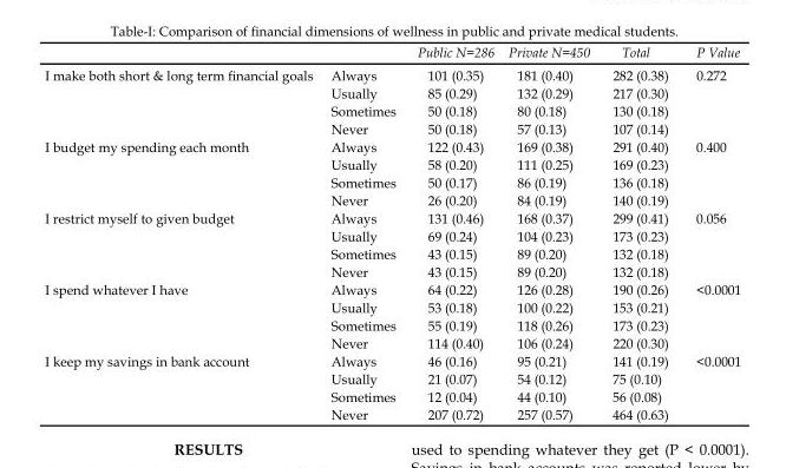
<table><thead><tr><td></td><td></td><td>Public N=286</td><td>Private N=450</td><td>Total</td><td>P Value</td></tr></thead><tbody><tr><td rowspan="4">I make both short &amp; long term financial goals</td><td>Always</td><td>101 (0.35)</td><td>181 (0.40)</td><td>282 (0.38)</td><td rowspan="4">0.272</td></tr><tr><td>Usually</td><td>85 (0.29)</td><td>132 (0.29)</td><td>217 (0.30)</td></tr><tr><td>Sometimes</td><td>50 (0.18)</td><td>80 (0.18)</td><td>130 (0.18)</td></tr><tr><td>Never</td><td>50 (0.18)</td><td>57 (0.13)</td><td>107 (0.14)</td></tr><tr><td rowspan="4">I budget my spending each month</td><td>Always</td><td>122 (0.43)</td><td>169 (0.38)</td><td>291 (0.40)</td><td rowspan="4">0.400</td></tr><tr><td>Usually</td><td>58 (0.20)</td><td>111 (0.25)</td><td>169 (0.23)</td></tr><tr><td>Sometimes</td><td>50 (0.17)</td><td>86 (0.19)</td><td>136 (0.18)</td></tr><tr><td>Never</td><td>26 (0.20)</td><td>84 (0.19)</td><td>140 (0.19)</td></tr><tr><td rowspan="4">I restrict myself to given budget</td><td>Always</td><td>131 (0.46)</td><td>168 (0.37)</td><td>299 (0.41)</td><td rowspan="4">0.056</td></tr><tr><td>Usually</td><td>69 (0.24)</td><td>104 (0.23)</td><td>173 (0.23)</td></tr><tr><td>Sometimes</td><td>43 (0.15)</td><td>89 (0.20)</td><td>132 (0.18)</td></tr><tr><td>Never</td><td>43 (0.15)</td><td>89 (0.20)</td><td>132 (0.18)</td></tr><tr><td rowspan="4">I spend whatever I have</td><td>Always</td><td>64 (0.22)</td><td>126 (0.28)</td><td>190 (0.26)</td><td rowspan="4">&lt;0.0001</td></tr><tr><td>Usually</td><td>53 (0.18)</td><td>100 (0.22)</td><td>153 (0.21)</td></tr><tr><td>Sometimes</td><td>55 (0.19)</td><td>118 (0.26)</td><td>173 (0.23)</td></tr><tr><td>Never</td><td>114 (0.40)</td><td>106 (0.24)</td><td>220 (0.30)</td></tr><tr><td rowspan="4">I keep my savings in bank account</td><td>Always</td><td>46 (0.16)</td><td>95 (0.21)</td><td>141 (0.19)</td><td rowspan="4">&lt;0.0001</td></tr><tr><td>Usually</td><td>21 (0.07)</td><td>54 (0.12)</td><td>75 (0.10)</td></tr><tr><td>Sometimes</td><td>12 (0.04)</td><td>44 (0.10)</td><td>56 (0.08)</td></tr><tr><td>Never</td><td>207 (0.72)</td><td>257 (0.57)</td><td>464 (0.63)</td></tr></tbody></table>